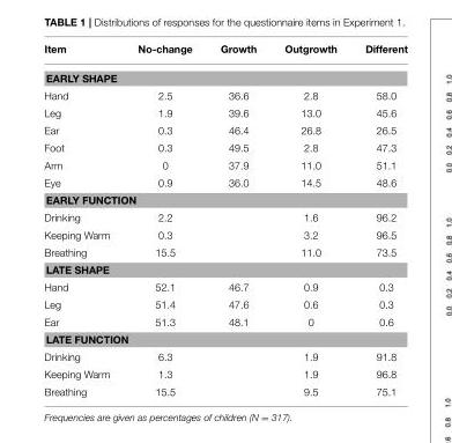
<table><thead><tr><td>Item</td><td>No-change</td><td>Growth</td><td>Outgrowth</td><td>Different</td></tr></thead><tbody><tr><td colspan="5">EARLY SHAPE</td></tr><tr><td>Hand</td><td>2.5</td><td>36.6</td><td>2.8</td><td>58.0</td></tr><tr><td>Leg</td><td>1.9</td><td>39.6</td><td>13.0</td><td>45.6</td></tr><tr><td>Ear</td><td>0.3</td><td>46.4</td><td>26.8</td><td>26.5</td></tr><tr><td>Foot</td><td>0.3</td><td>49.5</td><td>2.8</td><td>47.3</td></tr><tr><td>Arm</td><td>0</td><td>37.9</td><td>11.0</td><td>51.1</td></tr><tr><td>Eye</td><td>0.9</td><td>36.0</td><td>14.5</td><td>48.6</td></tr><tr><td colspan="5">EARLY FUNCTION</td></tr><tr><td>Drinking</td><td>2.2</td><td></td><td>1.6</td><td>96.2</td></tr><tr><td>Keeping Warm</td><td>0.3</td><td></td><td>3.2</td><td>96.5</td></tr><tr><td>Breathing</td><td>15.5</td><td></td><td>11.0</td><td>73.5</td></tr><tr><td colspan="5">LATE SHAPE</td></tr><tr><td>Hand</td><td>52.1</td><td>46.7</td><td>0.9</td><td>0.3</td></tr><tr><td>Leg</td><td>51.4</td><td>47.6</td><td>0.6</td><td>0.3</td></tr><tr><td>Ear</td><td>51.3</td><td>48.1</td><td>0</td><td>0.6</td></tr><tr><td colspan="5">LATE FUNCTION</td></tr><tr><td>Drinking</td><td>6.3</td><td></td><td>1.9</td><td>91.8</td></tr><tr><td>Keeping Warm</td><td>1.3</td><td></td><td>1.9</td><td>96.8</td></tr><tr><td>Breathing</td><td>15.5</td><td></td><td>9.5</td><td>75.1</td></tr></tbody></table>